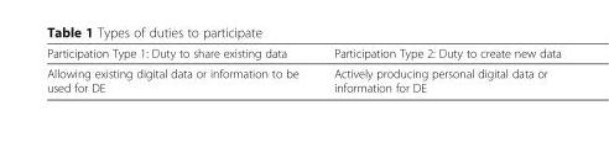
<table><thead><tr><td>Participation Type 1: Duty to share existing data</td><td>Participation Type 2: Duty to create new data</td></tr></thead><tbody><tr><td>Allowing existing digital data or information to be used for DE</td><td>Actively producing personal digital data or information for DE</td></tr></tbody></table>